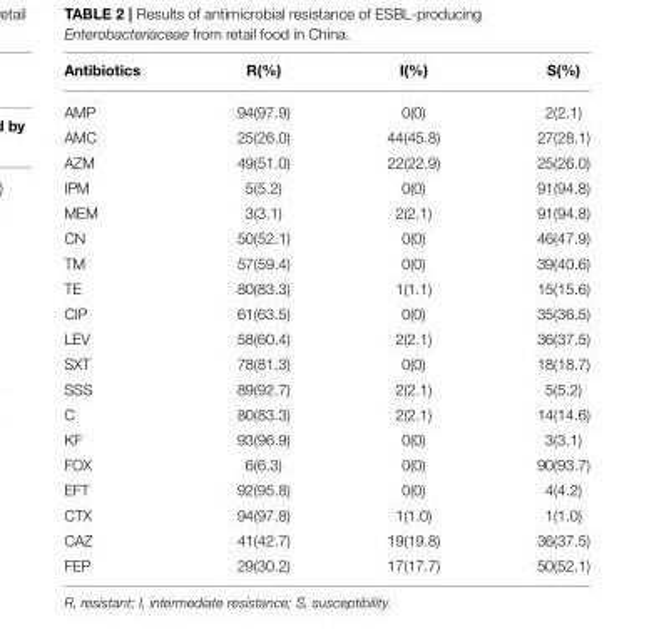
<table><thead><tr><td>Antibiotics</td><td>R(%)</td><td>I(%)</td><td>S(%)</td></tr></thead><tbody><tr><td>AMP</td><td>94(97.9)</td><td>0(0)</td><td>2(2.1)</td></tr><tr><td>AMC</td><td>25(26.0)</td><td>44(45.8)</td><td>27(28.1)</td></tr><tr><td>AZM</td><td>49(51.0)</td><td>22(22.9)</td><td>25(26.0)</td></tr><tr><td>IPM</td><td>5(5.2)</td><td>0(0)</td><td>91(94.8)</td></tr><tr><td>MEM</td><td>3(3.1)</td><td>2(2.1)</td><td>91(94.8)</td></tr><tr><td>CN</td><td>50(52.1)</td><td>0(0)</td><td>46(47.9)</td></tr><tr><td>TM</td><td>57(59.4)</td><td>0(0)</td><td>39(40.6)</td></tr><tr><td>TE</td><td>80(83.3)</td><td>1(1.1)</td><td>15(15.6)</td></tr><tr><td>CIP</td><td>61(63.5)</td><td>0(0)</td><td>35(36.5)</td></tr><tr><td>LEV</td><td>58(60.4)</td><td>2(2.1)</td><td>36(37.5)</td></tr><tr><td>SXT</td><td>78(81.3)</td><td>0(0)</td><td>18(18.7)</td></tr><tr><td>SSS</td><td>89(92.7)</td><td>2(2.1)</td><td>5(5.2)</td></tr><tr><td>C</td><td>80(83.3)</td><td>2(2.1)</td><td>14(14.6)</td></tr><tr><td>KF</td><td>93(96.9)</td><td>0(0)</td><td>3(3.1)</td></tr><tr><td>FOX</td><td>6(6.3)</td><td>0(0)</td><td>90(93.7)</td></tr><tr><td>EFT</td><td>92(95.8)</td><td>0(0)</td><td>4(4.2)</td></tr><tr><td>CTX</td><td>94(97.8)</td><td>1(1.0)</td><td>1(1.0)</td></tr><tr><td>CAZ</td><td>41(42.7)</td><td>19(19.8)</td><td>36(37.5)</td></tr><tr><td>FEP</td><td>29(30.2)</td><td>17(17.7)</td><td>50(52.1)</td></tr></tbody></table>